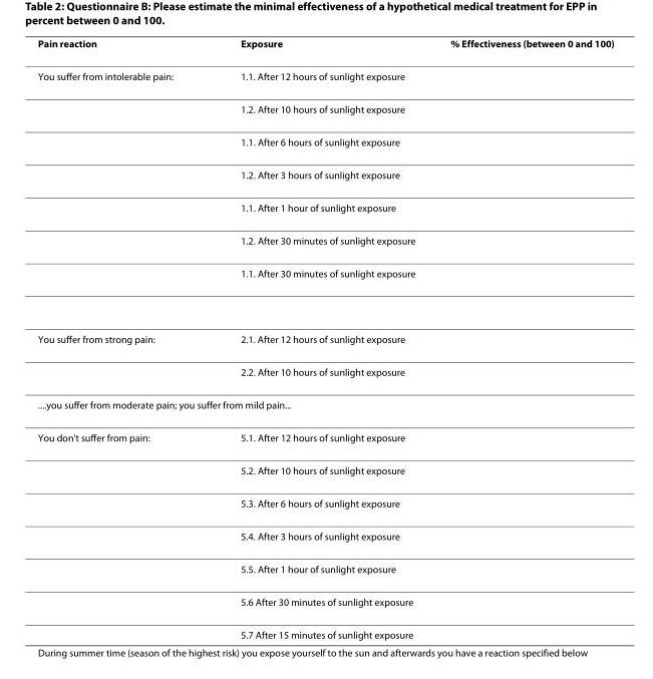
<table><thead><tr><td>Pain reaction</td><td>Exposure</td><td>% Effectiveness (between 0 and 100)</td></tr></thead><tbody><tr><td rowspan="7">You suffer from intolerable pain:</td><td>1.1. After 12 hours of sunlight exposure</td><td></td></tr><tr><td>1.2. After 10 hours of sunlight exposure</td><td></td></tr><tr><td>1.1. After 6 hours of sunlight exposure</td><td></td></tr><tr><td>1.2. After 3 hours of sunlight exposure</td><td></td></tr><tr><td>1.1. After 1 hour of sunlight exposure</td><td></td></tr><tr><td>1.2. After 30 minutes of sunlight exposure</td><td></td></tr><tr><td>1.1. After 30 minutes of sunlight exposure</td><td></td></tr><tr><td rowspan="2">You suffer from strong pain:</td><td>2.1. After 12 hours of sunlight exposure</td><td></td></tr><tr><td>2.2. After 10 hours of sunlight exposure</td><td></td></tr><tr><td colspan="3">....you suffer from moderate pain; you suffer from mild pain...</td></tr><tr><td rowspan="7">You don&#x27;t suffer from pain:</td><td>5.1. After 12 hours of sunlight exposure</td><td></td></tr><tr><td>5.2. After 10 hours of sunlight exposure</td><td></td></tr><tr><td>5.3. After 6 hours of sunlight exposure</td><td></td></tr><tr><td>5.4. After 3 hours of sunlight exposure</td><td></td></tr><tr><td>5.5. After 1 hour of sunlight exposure</td><td></td></tr><tr><td>5.6 After 30 minutes of sunlight exposure</td><td></td></tr><tr><td>5.7 After 15 minutes of sunlight exposure</td><td></td></tr></tbody></table>